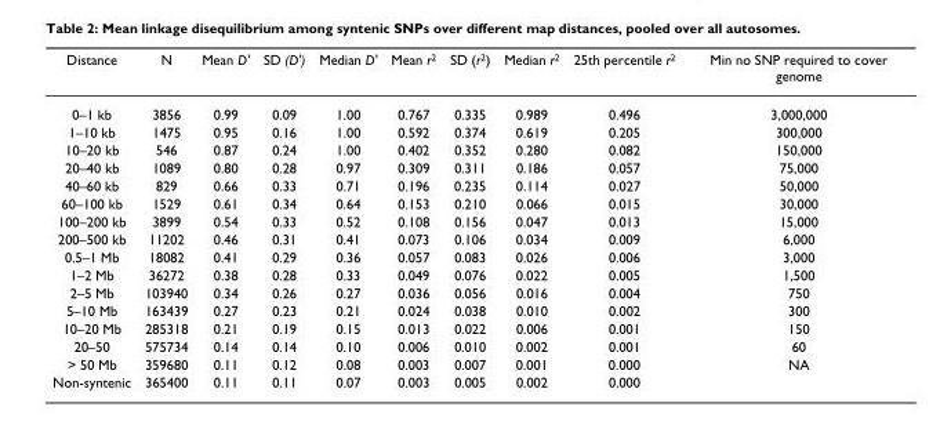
<table><thead><tr><td>Distance</td><td>N</td><td>Mean D&#x27;</td><td>SD (D&#x27;)</td><td>Median D&#x27;</td><td>Mean r<sup>2</sup></td><td>SD (r<sup>2</sup>)</td><td>Median r<sup>2</sup></td><td>25th percentile r<sup>2</sup></td><td>Min no SNP required to cover genome</td></tr></thead><tbody><tr><td>0–1 kb</td><td>3856</td><td>0.99</td><td>0.09</td><td>1.00</td><td>0.767</td><td>0.335</td><td>0.989</td><td>0.496</td><td>3,000,000</td></tr><tr><td>1–10 kb</td><td>1475</td><td>0.95</td><td>0.16</td><td>1.00</td><td>0.592</td><td>0.374</td><td>0.619</td><td>0.205</td><td>300,000</td></tr><tr><td>10–20 kb</td><td>546</td><td>0.87</td><td>0.24</td><td>1.00</td><td>0.402</td><td>0.352</td><td>0.280</td><td>0.082</td><td>150,000</td></tr><tr><td>20–40 kb</td><td>1089</td><td>0.80</td><td>0.28</td><td>0.97</td><td>0.309</td><td>0.311</td><td>0.186</td><td>0.057</td><td>75,000</td></tr><tr><td>40–60 kb</td><td>829</td><td>0.66</td><td>0.33</td><td>0.71</td><td>0.196</td><td>0.235</td><td>0.114</td><td>0.027</td><td>50,000</td></tr><tr><td>60–100 kb</td><td>1529</td><td>0.61</td><td>0.34</td><td>0.64</td><td>0.153</td><td>0.210</td><td>0.066</td><td>0.015</td><td>30,000</td></tr><tr><td>100–200 kb</td><td>3899</td><td>0.54</td><td>0.33</td><td>0.52</td><td>0.108</td><td>0.156</td><td>0.047</td><td>0.013</td><td>15,000</td></tr><tr><td>200–500 kb</td><td>11202</td><td>0.46</td><td>0.31</td><td>0.41</td><td>0.073</td><td>0.106</td><td>0.034</td><td>0.009</td><td>6,000</td></tr><tr><td>0.5–1 Mb</td><td>18082</td><td>0.41</td><td>0.29</td><td>0.36</td><td>0.057</td><td>0.083</td><td>0.026</td><td>0.006</td><td>3,000</td></tr><tr><td>1–2 Mb</td><td>36272</td><td>0.38</td><td>0.28</td><td>0.33</td><td>0.049</td><td>0.076</td><td>0.022</td><td>0.005</td><td>1,500</td></tr><tr><td>2–5 Mb</td><td>103940</td><td>0.34</td><td>0.26</td><td>0.27</td><td>0.036</td><td>0.056</td><td>0.016</td><td>0.004</td><td>750</td></tr><tr><td>5–10 Mb</td><td>163439</td><td>0.27</td><td>0.23</td><td>0.21</td><td>0.024</td><td>0.038</td><td>0.010</td><td>0.002</td><td>300</td></tr><tr><td>10–20 Mb</td><td>285318</td><td>0.21</td><td>0.19</td><td>0.15</td><td>0.013</td><td>0.022</td><td>0.006</td><td>0.001</td><td>150</td></tr><tr><td>20–50</td><td>575734</td><td>0.14</td><td>0.14</td><td>0.10</td><td>0.006</td><td>0.010</td><td>0.002</td><td>0.001</td><td>60</td></tr><tr><td>&gt; 50 Mb</td><td>359680</td><td>0.11</td><td>0.12</td><td>0.08</td><td>0.003</td><td>0.007</td><td>0.001</td><td>0.000</td><td>NA</td></tr><tr><td>Non-syntenic</td><td>365400</td><td>0.11</td><td>0.11</td><td>0.07</td><td>0.003</td><td>0.005</td><td>0.002</td><td>0.000</td><td></td></tr></tbody></table>